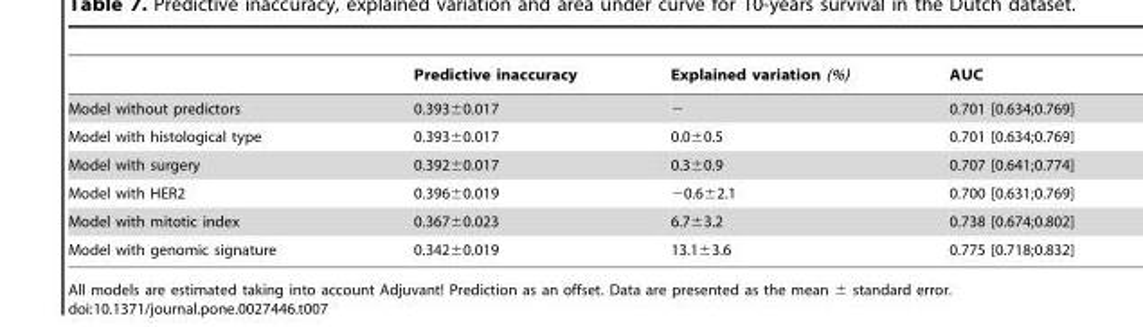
<table><thead><tr><td></td><td>Predictive inaccuracy</td><td>Explained variation (%)</td><td>AUC</td></tr></thead><tbody><tr><td>Model without predictors</td><td>0.393±0.017</td><td>−</td><td>0.701 [0.634;0.769]</td></tr><tr><td>Model with histological type</td><td>0.393±0.017</td><td>0.0±0.5</td><td>0.701 [0.634;0.769]</td></tr><tr><td>Model with surgery</td><td>0.392±0.017</td><td>0.3±0.9</td><td>0.707 [0.641;0.774]</td></tr><tr><td>Model with HER2</td><td>0.396±0.019</td><td>−0.6±2.1</td><td>0.700 [0.631;0.769]</td></tr><tr><td>Model with mitotic index</td><td>0.367±0.023</td><td>6.7±3.2</td><td>0.738 [0.674;0.802]</td></tr><tr><td>Model with genomic signature</td><td>0.342±0.019</td><td>13.1±3.6</td><td>0.775 [0.718;0.832]</td></tr></tbody></table>